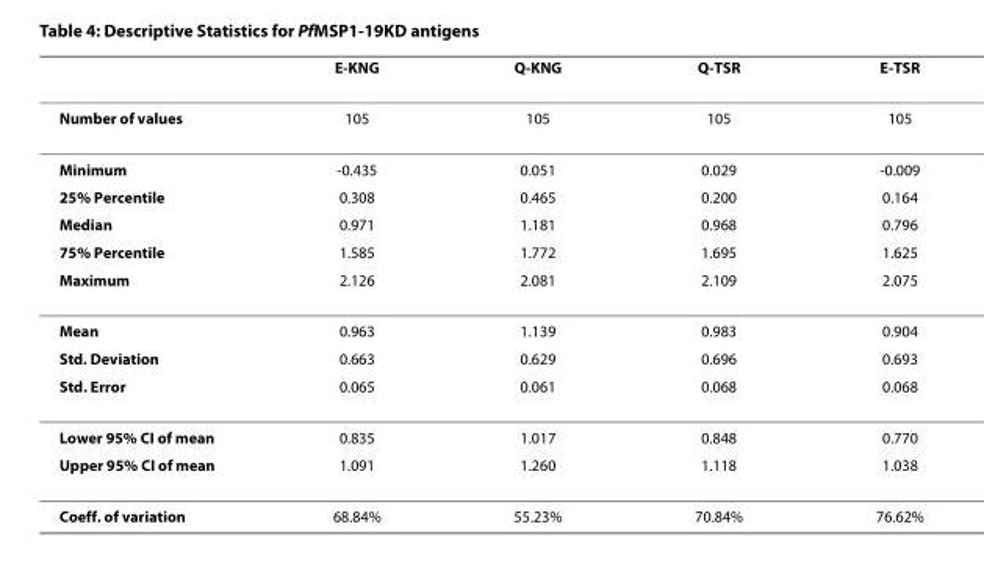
<table><thead><tr><td></td><td>E-KNG</td><td>Q-KNG</td><td>Q-TSR</td><td>E-TSR</td></tr></thead><tbody><tr><td>Number of values</td><td>105</td><td>105</td><td>105</td><td>105</td></tr><tr><td>Minimum</td><td>-0.435</td><td>0.051</td><td>0.029</td><td>-0.009</td></tr><tr><td>25% Percentile</td><td>0.308</td><td>0.465</td><td>0.200</td><td>0.164</td></tr><tr><td>Median</td><td>0.971</td><td>1.181</td><td>0.968</td><td>0.796</td></tr><tr><td>75% Percentile</td><td>1.585</td><td>1.772</td><td>1.695</td><td>1.625</td></tr><tr><td>Maximum</td><td>2.126</td><td>2.081</td><td>2.109</td><td>2.075</td></tr><tr><td>Mean</td><td>0.963</td><td>1.139</td><td>0.983</td><td>0.904</td></tr><tr><td>Std. Deviation</td><td>0.663</td><td>0.629</td><td>0.696</td><td>0.693</td></tr><tr><td>Std. Error</td><td>0.065</td><td>0.061</td><td>0.068</td><td>0.068</td></tr><tr><td>Lower 95% CI of mean</td><td>0.835</td><td>1.017</td><td>0.848</td><td>0.770</td></tr><tr><td>Upper 95% CI of mean</td><td>1.091</td><td>1.260</td><td>1.118</td><td>1.038</td></tr><tr><td>Coeff. of variation</td><td>68.84%</td><td>55.23%</td><td>70.84%</td><td>76.62%</td></tr></tbody></table>